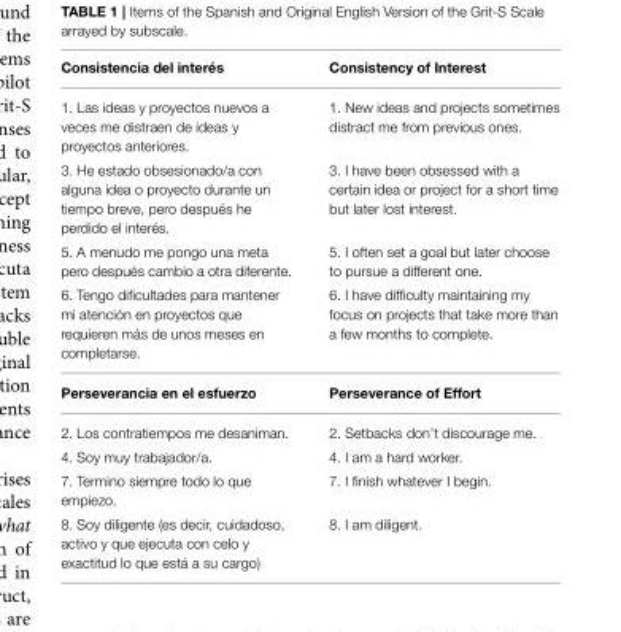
<table><thead><tr><td>Consistencia del interés</td><td>Consistency of Interest</td></tr></thead><tbody><tr><td>1. Las ideas y proyectos nuevos a veces me distraen de ideas y proyectos anteriores.</td><td>1. New ideas and projects sometimes distract me from previous ones.</td></tr><tr><td>3. He estado obsesionado/a con alguna idea o proyecto durante un tiempo breve, pero después he perdido el interés.</td><td>3. I have been obsessed with a certain idea or project for a short time but later lost interest.</td></tr><tr><td>5. A menudo me pongo una meta pero después cambio a otra diferente.</td><td>5. I often set a goal but later choose to pursue a different one.</td></tr><tr><td>6. Tengo dificultades para mantener mi atención en proyectos que requieren más de unos meses en completarse.</td><td>6. I have difficulty maintaining my focus on projects that take more than a few months to complete.</td></tr><tr><td>Perseverancia en el esfuerzo</td><td>Perseverance of Effort</td></tr><tr><td>2. Los contratiempos me desaniman.</td><td>2. Setbacks don’t discourage me.</td></tr><tr><td>4. Soy muy trabajador/a.</td><td>4. I am a hard worker.</td></tr><tr><td>7. Termino siempre todo lo que empiezo.</td><td>7. I finish whatever I begin.</td></tr><tr><td>8. Soy diligente (es decir, cuidadoso, activo y que ejecuta con celo y exactitud lo que está a su cargo)</td><td>8. I am diligent.</td></tr></tbody></table>